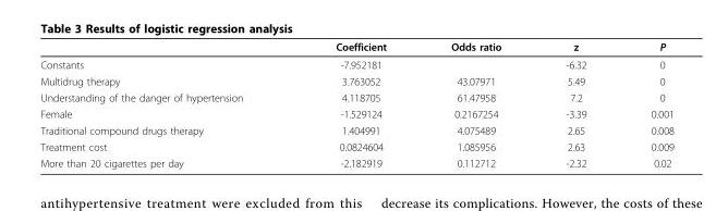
<table><thead><tr><td></td><td>Coefficient</td><td>Odds ratio</td><td>z</td><td>P</td></tr></thead><tbody><tr><td>Constants</td><td>-7.952181</td><td></td><td>-6.32</td><td>0</td></tr><tr><td>Multidrug therapy</td><td>3.763052</td><td>43.07971</td><td>5.49</td><td>0</td></tr><tr><td>Understanding of the danger of hypertension</td><td>4.118705</td><td>61.47958</td><td>7.2</td><td>0</td></tr><tr><td>Female</td><td>-1.529124</td><td>0.2167254</td><td>-3.39</td><td>0.001</td></tr><tr><td>Traditional compound drugs therapy</td><td>1.404991</td><td>4.075489</td><td>2.65</td><td>0.008</td></tr><tr><td>Treatment cost</td><td>0.0824604</td><td>1.085956</td><td>2.63</td><td>0.009</td></tr><tr><td>More than 20 cigarettes per day</td><td>-2.182919</td><td>0.112712</td><td>-2.32</td><td>0.02</td></tr></tbody></table>